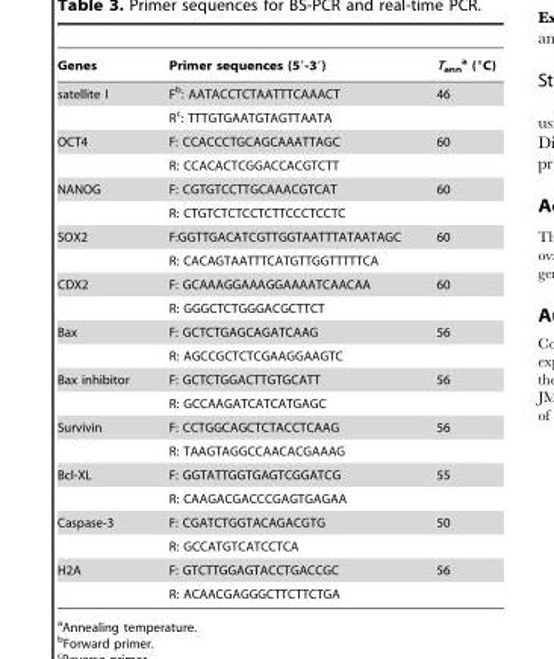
<table><thead><tr><td>Genes</td><td>Primer sequences (5′-3′)</td><td>T<sub>ann</sub> a (°C)</td></tr></thead><tbody><tr><td rowspan="2">satellite I</td><td>F<sup>b</sup>: AATACCTCTAATTTCAAACT</td><td>46</td></tr><tr><td>R<sup>c</sup>: TTTGTGAATGTAGTTAATA</td><td></td></tr><tr><td rowspan="2">OCT4</td><td>F: CCACCCTGCAGCAAATTAGC</td><td>60</td></tr><tr><td>R: CCACACTCGGACCACGTCTT</td><td></td></tr><tr><td rowspan="2">NANOG</td><td>F: CGTGTCCTTGCAAACGTCAT</td><td>60</td></tr><tr><td>R: CTGTCTCTCCTCTTCCCTCCTC</td><td></td></tr><tr><td rowspan="2">SOX2</td><td>F:GGTTGACATCGTTGGTAATTTATAATAGC</td><td>60</td></tr><tr><td>R: CACAGTAATTTCATGTTGGTTTTTCA</td><td></td></tr><tr><td rowspan="2">CDX2</td><td>F: GCAAAGGAAAGGAAAATCAACAA</td><td>60</td></tr><tr><td>R: GGGCTCTGGGACGCTTCT</td><td></td></tr><tr><td rowspan="2">Bax</td><td>F: GCTCTGAGCAGATCAAG</td><td>56</td></tr><tr><td>R: AGCCGCTCTCGAAGGAAGTC</td><td></td></tr><tr><td rowspan="2">Bax inhibitor</td><td>F: GCTCTGGACTTGTGCATT</td><td>56</td></tr><tr><td>R: GCCAAGATCATCATGAGC</td><td></td></tr><tr><td rowspan="2">Survivin</td><td>F: CCTGGCAGCTCTACCTCAAG</td><td>56</td></tr><tr><td>R: TAAGTAGGCCAACACGAAAG</td><td></td></tr><tr><td rowspan="2">Bcl-XL</td><td>F: GGTATTGGTGAGTCGGATCG</td><td>55</td></tr><tr><td>R: CAAGACGACCCGAGTGAGAA</td><td></td></tr><tr><td rowspan="2">Caspase-3</td><td>F: CGATCTGGTACAGACGTG</td><td>50</td></tr><tr><td>R: GCCATGTCATCCTCA</td><td></td></tr><tr><td rowspan="2">H2A</td><td>F: GTCTTGGAGTACCTGACCGC</td><td>56</td></tr><tr><td>R: ACAACGAGGGCTTCTTCTGA</td><td></td></tr></tbody></table>